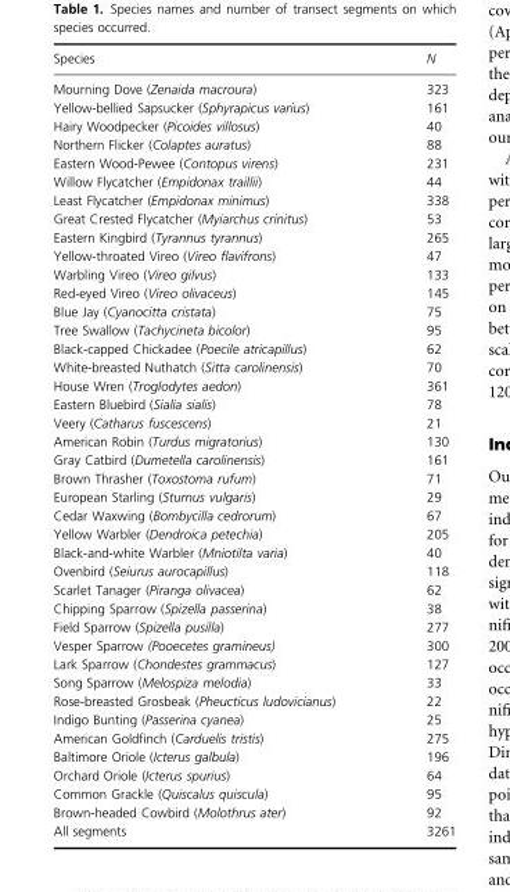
<table><thead><tr><td>Species</td><td>N</td></tr></thead><tbody><tr><td>Mourning Dove (Zenaida macroura)</td><td>323</td></tr><tr><td>Yellow-bellied Sapsucker (Sphyrapicus varius)</td><td>161</td></tr><tr><td>Hairy Woodpecker (Picoides villosus)</td><td>40</td></tr><tr><td>Northern Flicker (Colaptes auratus)</td><td>88</td></tr><tr><td>Eastern Wood-Pewee (Contopus virens)</td><td>231</td></tr><tr><td>Willow Flycatcher (Empidonax traillii)</td><td>44</td></tr><tr><td>Least Flycatcher (Empidonax minimus)</td><td>338</td></tr><tr><td>Great Crested Flycatcher (Myiarchus crinitus)</td><td>53</td></tr><tr><td>Eastern Kingbird (Tyrannus tyrannus)</td><td>265</td></tr><tr><td>Yellow-throated Vireo (Vireo flavifrons)</td><td>47</td></tr><tr><td>Warbling Vireo (Vireo gilvus)</td><td>133</td></tr><tr><td>Red-eyed Vireo (Vireo olivaceus)</td><td>145</td></tr><tr><td>Blue Jay (Cyanocitta cristata)</td><td>75</td></tr><tr><td>Tree Swallow (Tachycineta bicolor)</td><td>95</td></tr><tr><td>Black-capped Chickadee (Poecile atricapillus)</td><td>62</td></tr><tr><td>White-breasted Nuthatch (Sitta carolinensis)</td><td>70</td></tr><tr><td>House Wren (Troglodytes aedon)</td><td>361</td></tr><tr><td>Eastern Bluebird (Sialia sialis)</td><td>78</td></tr><tr><td>Veery (Catharus fuscescens)</td><td>21</td></tr><tr><td>American Robin (Turdus migratorius)</td><td>130</td></tr><tr><td>Gray Catbird (Dumetella carolinensis)</td><td>161</td></tr><tr><td>Brown Thrasher (Toxostoma rufum)</td><td>71</td></tr><tr><td>European Starling (Sturnus vulgaris)</td><td>29</td></tr><tr><td>Cedar Waxwing (Bombycilla cedrorum)</td><td>67</td></tr><tr><td>Yellow Warbler (Dendroica petechia)</td><td>205</td></tr><tr><td>Black-and-white Warbler (Mniotilta varia)</td><td>40</td></tr><tr><td>Ovenbird (Seiurus aurocapillus)</td><td>118</td></tr><tr><td>Scarlet Tanager (Piranga olivacea)</td><td>62</td></tr><tr><td>Chipping Sparrow (Spizella passerina)</td><td>38</td></tr><tr><td>Field Sparrow (Spizella pusilla)</td><td>277</td></tr><tr><td>Vesper Sparrow (Pooecetes gramineus)</td><td>300</td></tr><tr><td>Lark Sparrow (Chondestes grammacus)</td><td>127</td></tr><tr><td>Song Sparrow (Melospiza melodia)</td><td>33</td></tr><tr><td>Rose-breasted Grosbeak (Pheucticus ludovicianus)</td><td>22</td></tr><tr><td>Indigo Bunting (Passerina cyanea)</td><td>25</td></tr><tr><td>American Goldfinch (Carduelis tristis)</td><td>275</td></tr><tr><td>Baltimore Oriole (Icterus galbula)</td><td>196</td></tr><tr><td>Orchard Oriole (Icterus spurius)</td><td>64</td></tr><tr><td>Common Grackle (Quiscalus quiscula)</td><td>95</td></tr><tr><td>Brown-headed Cowbird (Molothrus ater)</td><td>92</td></tr><tr><td>All segments</td><td>3261</td></tr></tbody></table>